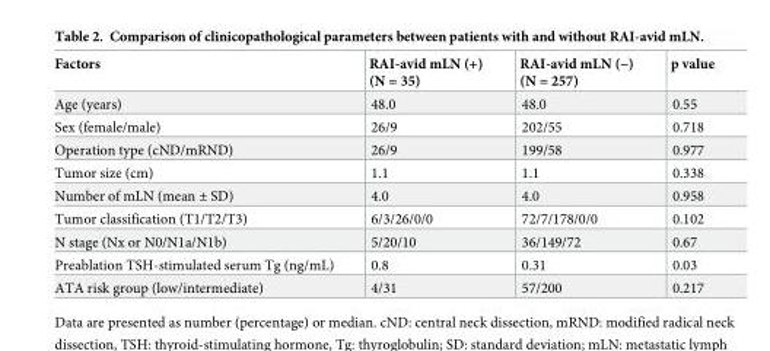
<table><thead><tr><td>Factors</td><td>RAI-avid mLN (+) (N = 35)</td><td>RAI-avid mLN (−) (N = 257)</td><td>p value</td></tr></thead><tbody><tr><td>Age (years)</td><td>48.0</td><td>48.0</td><td>0.55</td></tr><tr><td>Sex (female/male)</td><td>26/9</td><td>202/55</td><td>0.718</td></tr><tr><td>Operation type (cND/mRND)</td><td>26/9</td><td>199/58</td><td>0.977</td></tr><tr><td>Tumor size (cm)</td><td>1.1</td><td>1.1</td><td>0.338</td></tr><tr><td>Number of mLN (mean ± SD)</td><td>4.0</td><td>4.0</td><td>0.958</td></tr><tr><td>Tumor classification (T1/T2/T3)</td><td>6/3/26/0/0</td><td>72/7/178/0/0</td><td>0.102</td></tr><tr><td>N stage (Nx or N0/N1a/N1b)</td><td>5/20/10</td><td>36/149/72</td><td>0.67</td></tr><tr><td>Preablation TSH-stimulated serum Tg (ng/mL)</td><td>0.8</td><td>0.31</td><td>0.03</td></tr><tr><td>ATA risk group (low/intermediate)</td><td>4/31</td><td>57/200</td><td>0.217</td></tr></tbody></table>